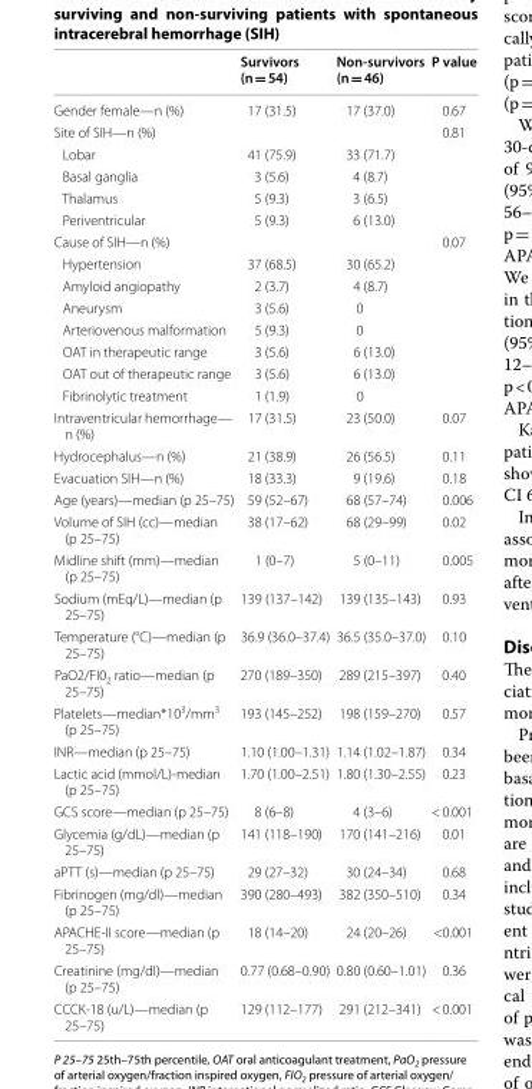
<table><thead><tr><td></td><td>Survivors (n = 54)</td><td>Non‑survivors (n = 46)</td><td>P value</td></tr></thead><tbody><tr><td>Gender female—n (%)</td><td>17 (31.5)</td><td>17 (37.0)</td><td>0.67</td></tr><tr><td>Site of SIH—n (%)</td><td></td><td></td><td>0.81</td></tr><tr><td>Lobar</td><td>41 (75.9)</td><td>33 (71.7)</td><td></td></tr><tr><td>Basal ganglia</td><td>3 (5.6)</td><td>4 (8.7)</td><td></td></tr><tr><td>Thalamus</td><td>5 (9.3)</td><td>3 (6.5)</td><td></td></tr><tr><td>Periventricular</td><td>5 (9.3)</td><td>6 (13.0)</td><td></td></tr><tr><td>Cause of SIH—n (%)</td><td></td><td></td><td>0.07</td></tr><tr><td>Hypertension</td><td>37 (68.5)</td><td>30 (65.2)</td><td></td></tr><tr><td>Amyloid angiopathy</td><td>2 (3.7)</td><td>4 (8.7)</td><td></td></tr><tr><td>Aneurysm</td><td>3 (5.6)</td><td>0</td><td></td></tr><tr><td>Arteriovenous malformation</td><td>5 (9.3)</td><td>0</td><td></td></tr><tr><td>OAT in therapeutic range</td><td>3 (5.6)</td><td>6 (13.0)</td><td></td></tr><tr><td>OAT out of therapeutic range</td><td>3 (5.6)</td><td>6 (13.0)</td><td></td></tr><tr><td>Fibrinolytic treatment</td><td>1 (1.9)</td><td>0</td><td></td></tr><tr><td>Intraventricular hemorrhage— n (%)</td><td>17 (31.5)</td><td>23 (50.0)</td><td>0.07</td></tr><tr><td>Hydrocephalus—n (%)</td><td>21 (38.9)</td><td>26 (56.5)</td><td>0.11</td></tr><tr><td>Evacuation SIH—n (%)</td><td>18 (33.3)</td><td>9 (19.6)</td><td>0.18</td></tr><tr><td>Age (years)—median (p 25–75)</td><td>59 (52–67)</td><td>68 (57–74)</td><td>0.006</td></tr><tr><td>Volume of SIH (cc)—median (p 25–75)</td><td>38 (17–62)</td><td>68 (29–99)</td><td>0.02</td></tr><tr><td>Midline shift (mm)—median (p 25–75)</td><td>1 (0–7)</td><td>5 (0–11)</td><td>0.005</td></tr><tr><td>Sodium (mEq/L)—median (p 25–75)</td><td>139 (137–142)</td><td>139 (135–143)</td><td>0.93</td></tr><tr><td>Temperature (°C)—median (p 25–75)</td><td>36.9 (36.0–37.4)</td><td>36.5 (35.0–37.0)</td><td>0.10</td></tr><tr><td>PaO2/FI0<sub>2</sub> ratio—median (p 25–75)</td><td>270 (189–350)</td><td>289 (215–397)</td><td>0.40</td></tr><tr><td>Platelets—median*10<sup>3</sup>/mm<sup>3</sup> (p 25–75)</td><td>193 (145–252)</td><td>198 (159–270)</td><td>0.57</td></tr><tr><td>INR—median (p 25–75)</td><td>1.10 (1.00–1.31)</td><td>1.14 (1.02–1.87)</td><td>0.34</td></tr><tr><td>Lactic acid (mmol/L)‑median (p 25–75)</td><td>1.70 (1.00–2.51)</td><td>1.80 (1.30–2.55)</td><td>0.23</td></tr><tr><td>GCS score—median (p 25–75)</td><td>8 (6–8)</td><td>4 (3–6)</td><td>&lt; 0.001</td></tr><tr><td>Glycemia (g/dL)—median (p 25–75)</td><td>141 (118–190)</td><td>170 (141–216)</td><td>0.01</td></tr><tr><td>aPTT (s)—median (p 25–75)</td><td>29 (27–32)</td><td>30 (24–34)</td><td>0.68</td></tr><tr><td>Fibrinogen (mg/dl)—median (p 25–75)</td><td>390 (280–493)</td><td>382 (350–510)</td><td>0.34</td></tr><tr><td>APACHE‑II score—median (p 25–75)</td><td>18 (14–20)</td><td>24 (20–26)</td><td>&lt;0.001</td></tr><tr><td>Creatinine (mg/dl)—median (p 25–75)</td><td>0.77 (0.68–0.90)</td><td>0.80 (0.60–1.01)</td><td>0.36</td></tr><tr><td>CCCK‑18 (u/L)—median (p 25–75)</td><td>129 (112–177)</td><td>291 (212–341)</td><td>&lt; 0.001</td></tr></tbody></table>